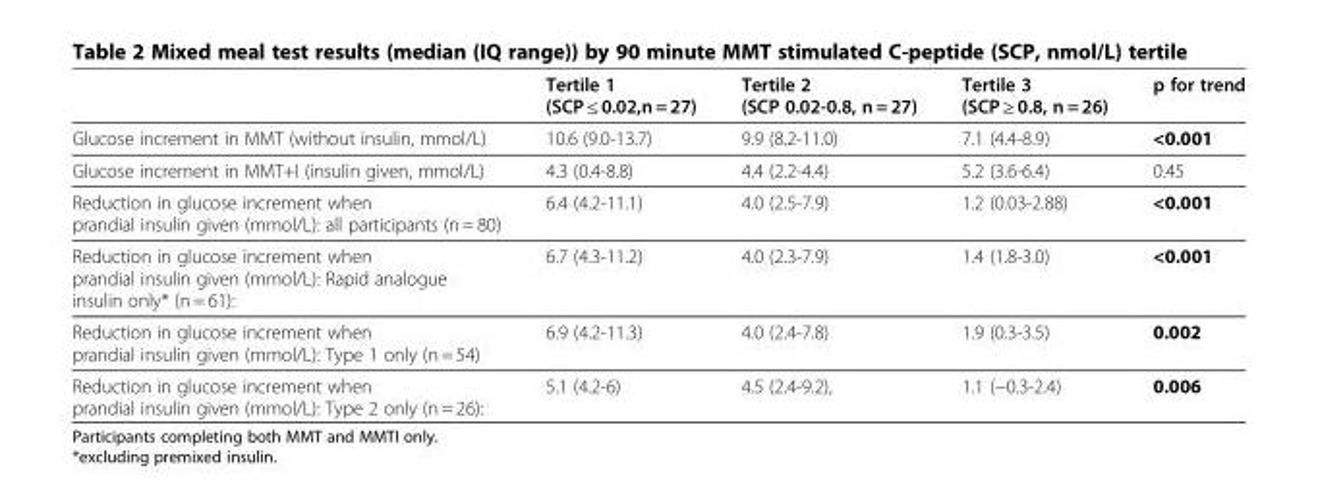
<table><thead><tr><td></td><td>Tertile 1 (SCP ≤ 0.02,n = 27)</td><td>Tertile 2 (SCP 0.02-0.8, n = 27)</td><td>Tertile 3 (SCP ≥ 0.8, n = 26)</td><td>p for trend</td></tr></thead><tbody><tr><td>Glucose increment in MMT (without insulin, mmol/L)</td><td>10.6 (9.0-13.7)</td><td>9.9 (8.2-11.0)</td><td>7.1 (4.4-8.9)</td><td>&lt;0.001</td></tr><tr><td>Glucose increment in MMT+I (insulin given, mmol/L)</td><td>4.3 (0.4-8.8)</td><td>4.4 (2.2-4.4)</td><td>5.2 (3.6-6.4)</td><td>0.45</td></tr><tr><td>Reduction in glucose increment when prandial insulin given (mmol/L): all participants (n = 80)</td><td>6.4 (4.2-11.1)</td><td>4.0 (2.5-7.9)</td><td>1.2 (0.03-2.88)</td><td>&lt;0.001</td></tr><tr><td>Reduction in glucose increment when prandial insulin given (mmol/L): Rapid analogue insulin only* (n = 61):</td><td>6.7 (4.3-11.2)</td><td>4.0 (2.3-7.9)</td><td>1.4 (1.8-3.0)</td><td>&lt;0.001</td></tr><tr><td>Reduction in glucose increment when prandial insulin given (mmol/L): Type 1 only (n = 54)</td><td>6.9 (4.2-11.3)</td><td>4.0 (2.4-7.8)</td><td>1.9 (0.3-3.5)</td><td>0.002</td></tr><tr><td>Reduction in glucose increment when prandial insulin given (mmol/L): Type 2 only (n = 26):</td><td>5.1 (4.2-6)</td><td>4.5 (2.4-9.2),</td><td>1.1 (−0.3-2.4)</td><td>0.006</td></tr></tbody></table>